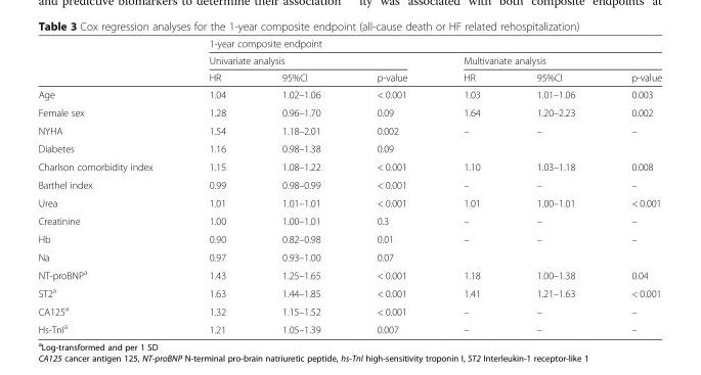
<table><thead><tr><td rowspan="3"></td><td colspan="6">1-year composite endpoint</td></tr><tr><td colspan="3">Univariate analysis</td><td colspan="3">Multivariate analysis</td></tr><tr><td>HR</td><td>95%CI</td><td>p-value</td><td>HR</td><td>95%CI</td><td>p-value</td></tr></thead><tbody><tr><td>Age</td><td>1.04</td><td>1.02–1.06</td><td>&lt; 0.001</td><td>1.03</td><td>1.01–1.06</td><td>0.003</td></tr><tr><td>Female sex</td><td>1.28</td><td>0.96–1.70</td><td>0.09</td><td>1.64</td><td>1.20–2.23</td><td>0.002</td></tr><tr><td>NYHA</td><td>1.54</td><td>1.18–2.01</td><td>0.002</td><td>–</td><td>–</td><td>–</td></tr><tr><td>Diabetes</td><td>1.16</td><td>0.98–1.38</td><td>0.09</td><td></td><td></td><td></td></tr><tr><td>Charlson comorbidity index</td><td>1.15</td><td>1.08–1.22</td><td>&lt; 0.001</td><td>1.10</td><td>1.03–1.18</td><td>0.008</td></tr><tr><td>Barthel index</td><td>0.99</td><td>0.98–0.99</td><td>&lt; 0.001</td><td>–</td><td>–</td><td>–</td></tr><tr><td>Urea</td><td>1.01</td><td>1.01–1.01</td><td>&lt; 0.001</td><td>1.01</td><td>1.00–1.01</td><td>&lt; 0.001</td></tr><tr><td>Creatinine</td><td>1.00</td><td>1.00–1.01</td><td>0.3</td><td>–</td><td>–</td><td>–</td></tr><tr><td>Hb</td><td>0.90</td><td>0.82–0.98</td><td>0.01</td><td>–</td><td>–</td><td>–</td></tr><tr><td>Na</td><td>0.97</td><td>0.93–1.00</td><td>0.07</td><td></td><td></td><td></td></tr><tr><td>NT-proBNP<sup>a</sup></td><td>1.43</td><td>1.25–1.65</td><td>&lt; 0.001</td><td>1.18</td><td>1.00–1.38</td><td>0.04</td></tr><tr><td>ST2<sup>a</sup></td><td>1.63</td><td>1.44–1.85</td><td>&lt; 0.001</td><td>1.41</td><td>1.21–1.63</td><td>&lt; 0.001</td></tr><tr><td>CA125<sup>a</sup></td><td>1.32</td><td>1.15–1.52</td><td>&lt; 0.001</td><td>–</td><td>–</td><td>–</td></tr><tr><td>Hs-TnI<sup>a</sup></td><td>1.21</td><td>1.05–1.39</td><td>0.007</td><td>–</td><td>–</td><td>–</td></tr></tbody></table>